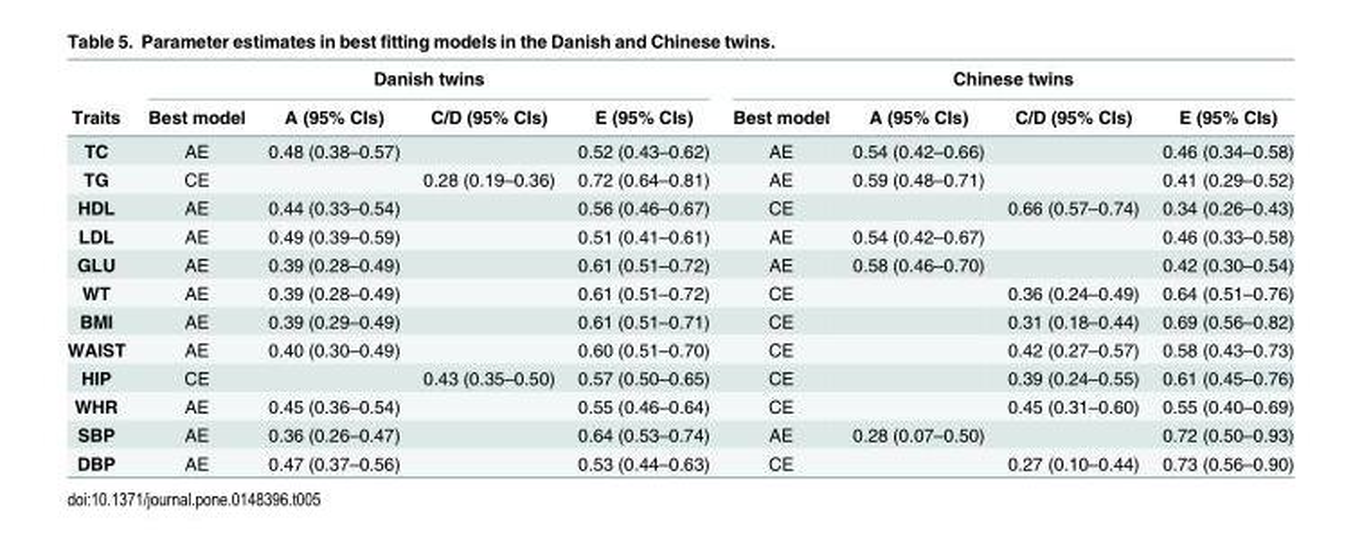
<table><thead><tr><td rowspan="2">Traits</td><td colspan="4">Danish twins</td><td colspan="4">Chinese twins</td></tr><tr><td>Best model</td><td>A (95% CIs)</td><td>C/D (95% CIs)</td><td>E (95% CIs)</td><td>Best model</td><td>A (95% CIs)</td><td>C/D (95% CIs)</td><td>E (95% CIs)</td></tr></thead><tbody><tr><td>TC</td><td>AE</td><td>0.48 (0.38–0.57)</td><td></td><td>0.52 (0.43–0.62)</td><td>AE</td><td>0.54 (0.42–0.66)</td><td></td><td>0.46 (0.34–0.58)</td></tr><tr><td>TG</td><td>CE</td><td></td><td>0.28 (0.19–0.36)</td><td>0.72 (0.64–0.81)</td><td>AE</td><td>0.59 (0.48–0.71)</td><td></td><td>0.41 (0.29–0.52)</td></tr><tr><td>HDL</td><td>AE</td><td>0.44 (0.33–0.54)</td><td></td><td>0.56 (0.46–0.67)</td><td>CE</td><td></td><td>0.66 (0.57–0.74)</td><td>0.34 (0.26–0.43)</td></tr><tr><td>LDL</td><td>AE</td><td>0.49 (0.39–0.59)</td><td></td><td>0.51 (0.41–0.61)</td><td>AE</td><td>0.54 (0.42–0.67)</td><td></td><td>0.46 (0.33–0.58)</td></tr><tr><td>GLU</td><td>AE</td><td>0.39 (0.28–0.49)</td><td></td><td>0.61 (0.51–0.72)</td><td>AE</td><td>0.58 (0.46–0.70)</td><td></td><td>0.42 (0.30–0.54)</td></tr><tr><td>WT</td><td>AE</td><td>0.39 (0.28–0.49)</td><td></td><td>0.61 (0.51–0.72)</td><td>CE</td><td></td><td>0.36 (0.24–0.49)</td><td>0.64 (0.51–0.76)</td></tr><tr><td>BMI</td><td>AE</td><td>0.39 (0.29–0.49)</td><td></td><td>0.61 (0.51–0.71)</td><td>CE</td><td></td><td>0.31 (0.18–0.44)</td><td>0.69 (0.56–0.82)</td></tr><tr><td>WAIST</td><td>AE</td><td>0.40 (0.30–0.49)</td><td></td><td>0.60 (0.51–0.70)</td><td>CE</td><td></td><td>0.42 (0.27–0.57)</td><td>0.58 (0.43–0.73)</td></tr><tr><td>HIP</td><td>CE</td><td></td><td>0.43 (0.35–0.50)</td><td>0.57 (0.50–0.65)</td><td>CE</td><td></td><td>0.39 (0.24–0.55)</td><td>0.61 (0.45–0.76)</td></tr><tr><td>WHR</td><td>AE</td><td>0.45 (0.36–0.54)</td><td></td><td>0.55 (0.46–0.64)</td><td>CE</td><td></td><td>0.45 (0.31–0.60)</td><td>0.55 (0.40–0.69)</td></tr><tr><td>SBP</td><td>AE</td><td>0.36 (0.26–0.47)</td><td></td><td>0.64 (0.53–0.74)</td><td>AE</td><td>0.28 (0.07–0.50)</td><td></td><td>0.72 (0.50–0.93)</td></tr><tr><td>DBP</td><td>AE</td><td>0.47 (0.37–0.56)</td><td></td><td>0.53 (0.44–0.63)</td><td>CE</td><td></td><td>0.27 (0.10–0.44)</td><td>0.73 (0.56–0.90)</td></tr></tbody></table>